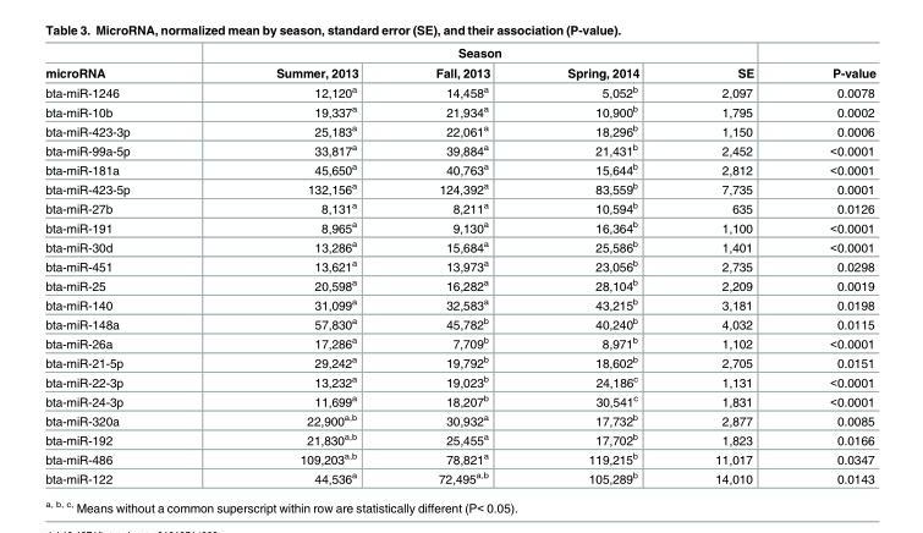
<table><thead><tr><td rowspan="2">microRNA</td><td colspan="4">Season</td><td rowspan="2">P-value</td></tr><tr><td>Summer, 2013</td><td>Fall, 2013</td><td>Spring, 2014</td><td>SE</td></tr></thead><tbody><tr><td>bta-miR-1246</td><td>12,120<sup>a</sup></td><td>14,458<sup>a</sup></td><td>5,052<sup>b</sup></td><td>2,097</td><td>0.0078</td></tr><tr><td>bta-miR-10b</td><td>19,337<sup>a</sup></td><td>21,934<sup>a</sup></td><td>10,900<sup>b</sup></td><td>1,795</td><td>0.0002</td></tr><tr><td>bta-miR-423-3p</td><td>25,183<sup>a</sup></td><td>22,061<sup>a</sup></td><td>18,296<sup>b</sup></td><td>1,150</td><td>0.0006</td></tr><tr><td>bta-miR-99a-5p</td><td>33,817<sup>a</sup></td><td>39,884<sup>a</sup></td><td>21,431<sup>b</sup></td><td>2,452</td><td>&lt;0.0001</td></tr><tr><td>bta-miR-181a</td><td>45,650<sup>a</sup></td><td>40,763<sup>a</sup></td><td>15,644<sup>b</sup></td><td>2,812</td><td>&lt;0.0001</td></tr><tr><td>bta-miR-423-5p</td><td>132,156<sup>a</sup></td><td>124,392<sup>a</sup></td><td>83,559<sup>b</sup></td><td>7,735</td><td>0.0001</td></tr><tr><td>bta-miR-27b</td><td>8,131<sup>a</sup></td><td>8,211<sup>a</sup></td><td>10,594<sup>b</sup></td><td>635</td><td>0.0126</td></tr><tr><td>bta-miR-191</td><td>8,965<sup>a</sup></td><td>9,130<sup>a</sup></td><td>16,364<sup>b</sup></td><td>1,100</td><td>&lt;0.0001</td></tr><tr><td>bta-miR-30d</td><td>13,286<sup>a</sup></td><td>15,684<sup>a</sup></td><td>25,586<sup>b</sup></td><td>1,401</td><td>&lt;0.0001</td></tr><tr><td>bta-miR-451</td><td>13,621<sup>a</sup></td><td>13,973<sup>a</sup></td><td>23,056<sup>b</sup></td><td>2,735</td><td>0.0298</td></tr><tr><td>bta-miR-25</td><td>20,598<sup>a</sup></td><td>16,282<sup>a</sup></td><td>28,104<sup>b</sup></td><td>2,209</td><td>0.0019</td></tr><tr><td>bta-miR-140</td><td>31,099<sup>a</sup></td><td>32,583<sup>a</sup></td><td>43,215<sup>b</sup></td><td>3,181</td><td>0.0198</td></tr><tr><td>bta-miR-148a</td><td>57,830<sup>a</sup></td><td>45,782<sup>b</sup></td><td>40,240<sup>b</sup></td><td>4,032</td><td>0.0115</td></tr><tr><td>bta-miR-26a</td><td>17,286<sup>a</sup></td><td>7,709<sup>b</sup></td><td>8,971<sup>b</sup></td><td>1,102</td><td>&lt;0.0001</td></tr><tr><td>bta-miR-21-5p</td><td>29,242<sup>a</sup></td><td>19,792<sup>b</sup></td><td>18,602<sup>b</sup></td><td>2,705</td><td>0.0151</td></tr><tr><td>bta-miR-22-3p</td><td>13,232<sup>a</sup></td><td>19,023<sup>b</sup></td><td>24,186<sup>c</sup></td><td>1,131</td><td>&lt;0.0001</td></tr><tr><td>bta-miR-24-3p</td><td>11,699<sup>a</sup></td><td>18,207<sup>b</sup></td><td>30,541<sup>c</sup></td><td>1,831</td><td>&lt;0.0001</td></tr><tr><td>bta-miR-320a</td><td>22,900<sup>a,b</sup></td><td>30,932<sup>a</sup></td><td>17,732<sup>b</sup></td><td>2,877</td><td>0.0085</td></tr><tr><td>bta-miR-192</td><td>21,830<sup>a,b</sup></td><td>25,455<sup>a</sup></td><td>17,702<sup>b</sup></td><td>1,823</td><td>0.0166</td></tr><tr><td>bta-miR-486</td><td>109,203<sup>a,b</sup></td><td>78,821<sup>a</sup></td><td>119,215<sup>b</sup></td><td>11,017</td><td>0.0347</td></tr><tr><td>bta-miR-122</td><td>44,536<sup>a</sup></td><td>72,495<sup>a,b</sup></td><td>105,289<sup>b</sup></td><td>14,010</td><td>0.0143</td></tr></tbody></table>